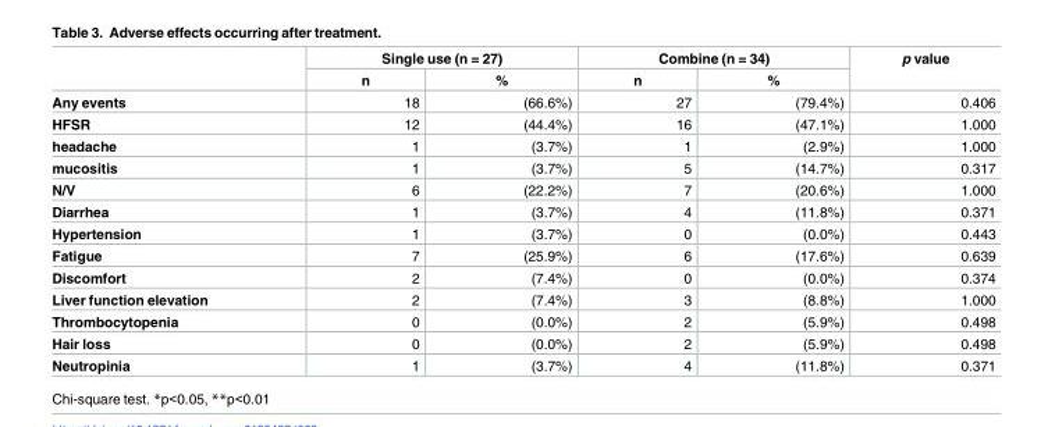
<table><thead><tr><td rowspan="2"></td><td colspan="2">Single use (n = 27)</td><td colspan="2">Combine (n = 34)</td><td rowspan="2">p value</td></tr><tr><td>n</td><td>%</td><td>n</td><td>%</td></tr></thead><tbody><tr><td>Any events</td><td>18</td><td>(66.6%)</td><td>27</td><td>(79.4%)</td><td>0.406</td></tr><tr><td>HFSR</td><td>12</td><td>(44.4%)</td><td>16</td><td>(47.1%)</td><td>1.000</td></tr><tr><td>headache</td><td>1</td><td>(3.7%)</td><td>1</td><td>(2.9%)</td><td>1.000</td></tr><tr><td>mucositis</td><td>1</td><td>(3.7%)</td><td>5</td><td>(14.7%)</td><td>0.317</td></tr><tr><td>N/V</td><td>6</td><td>(22.2%)</td><td>7</td><td>(20.6%)</td><td>1.000</td></tr><tr><td>Diarrhea</td><td>1</td><td>(3.7%)</td><td>4</td><td>(11.8%)</td><td>0.371</td></tr><tr><td>Hypertension</td><td>1</td><td>(3.7%)</td><td>0</td><td>(0.0%)</td><td>0.443</td></tr><tr><td>Fatigue</td><td>7</td><td>(25.9%)</td><td>6</td><td>(17.6%)</td><td>0.639</td></tr><tr><td>Discomfort</td><td>2</td><td>(7.4%)</td><td>0</td><td>(0.0%)</td><td>0.374</td></tr><tr><td>Liver function elevation</td><td>2</td><td>(7.4%)</td><td>3</td><td>(8.8%)</td><td>1.000</td></tr><tr><td>Thrombocytopenia</td><td>0</td><td>(0.0%)</td><td>2</td><td>(5.9%)</td><td>0.498</td></tr><tr><td>Hair loss</td><td>0</td><td>(0.0%)</td><td>2</td><td>(5.9%)</td><td>0.498</td></tr><tr><td>Neutropinia</td><td>1</td><td>(3.7%)</td><td>4</td><td>(11.8%)</td><td>0.371</td></tr></tbody></table>